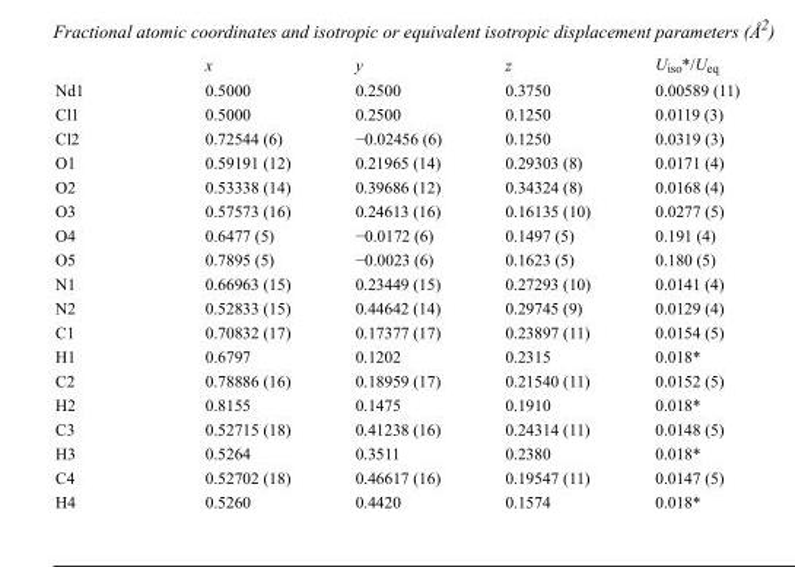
<table><thead><tr><td></td><td>x</td><td>y</td><td>z</td><td>U<sub>iso</sub>*/U<sub>eq</sub></td></tr></thead><tbody><tr><td>Nd1</td><td>0.5000</td><td>0.2500</td><td>0.3750</td><td>0.00589 (11)</td></tr><tr><td>Cl1</td><td>0.5000</td><td>0.2500</td><td>0.1250</td><td>0.0119 (3)</td></tr><tr><td>Cl2</td><td>0.72544 (6)</td><td>−0.02456 (6)</td><td>0.1250</td><td>0.0319 (3)</td></tr><tr><td>O1</td><td>0.59191 (12)</td><td>0.21965 (14)</td><td>0.29303 (8)</td><td>0.0171 (4)</td></tr><tr><td>O2</td><td>0.53338 (14)</td><td>0.39686 (12)</td><td>0.34324 (8)</td><td>0.0168 (4)</td></tr><tr><td>O3</td><td>0.57573 (16)</td><td>0.24613 (16)</td><td>0.16135 (10)</td><td>0.0277 (5)</td></tr><tr><td>O4</td><td>0.6477 (5)</td><td>−0.0172 (6)</td><td>0.1497 (5)</td><td>0.191 (4)</td></tr><tr><td>O5</td><td>0.7895 (5)</td><td>−0.0023 (6)</td><td>0.1623 (5)</td><td>0.180 (5)</td></tr><tr><td>N1</td><td>0.66963 (15)</td><td>0.23449 (15)</td><td>0.27293 (10)</td><td>0.0141 (4)</td></tr><tr><td>N2</td><td>0.52833 (15)</td><td>0.44642 (14)</td><td>0.29745 (9)</td><td>0.0129 (4)</td></tr><tr><td>C1</td><td>0.70832 (17)</td><td>0.17377 (17)</td><td>0.23897 (11)</td><td>0.0154 (5)</td></tr><tr><td>H1</td><td>0.6797</td><td>0.1202</td><td>0.2315</td><td>0.018*</td></tr><tr><td>C2</td><td>0.78886 (16)</td><td>0.18959 (17)</td><td>0.21540 (11)</td><td>0.0152 (5)</td></tr><tr><td>H2</td><td>0.8155</td><td>0.1475</td><td>0.1910</td><td>0.018*</td></tr><tr><td>C3</td><td>0.52715 (18)</td><td>0.41238 (16)</td><td>0.24314 (11)</td><td>0.0148 (5)</td></tr><tr><td>H3</td><td>0.5264</td><td>0.3511</td><td>0.2380</td><td>0.018*</td></tr><tr><td>C4</td><td>0.52702 (18)</td><td>0.46617 (16)</td><td>0.19547 (11)</td><td>0.0147 (5)</td></tr><tr><td>H4</td><td>0.5260</td><td>0.4420</td><td>0.1574</td><td>0.018*</td></tr></tbody></table>